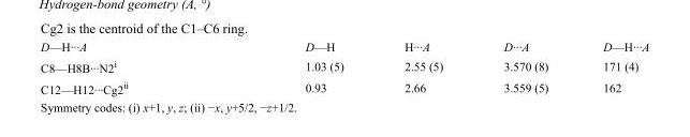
<table><tbody><tr><td>D—H···A</td><td>D—H</td><td>H···A</td><td>D···A</td><td>D—H···A</td></tr><tr><td>C8—H8B···N2<sup>i</sup></td><td>1.03 (5)</td><td>2.55 (5)</td><td>3.570 (8)</td><td>171 (4)</td></tr><tr><td>C12—H12···Cg2<sup>ii</sup></td><td>0.93</td><td>2.66</td><td>3.559 (5)</td><td>162</td></tr></tbody></table>